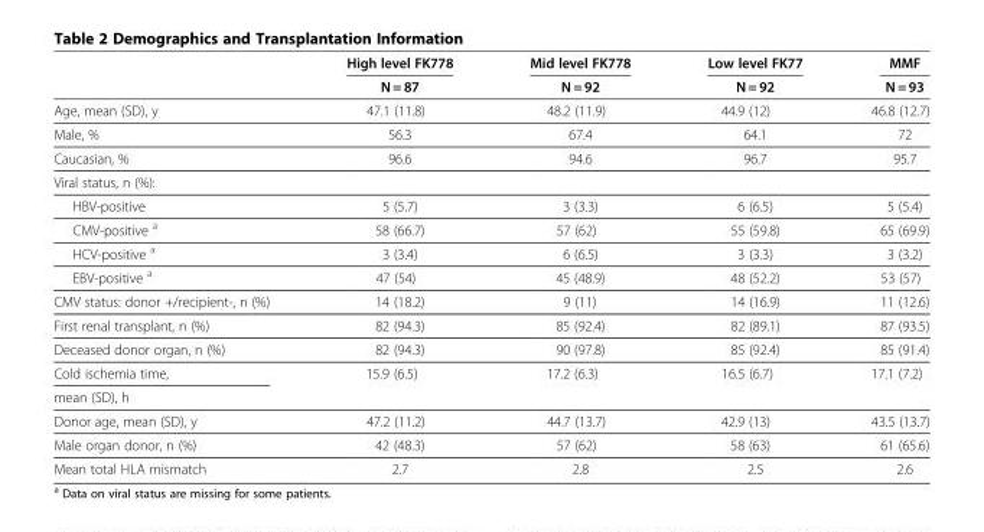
<table><thead><tr><td rowspan="2"></td><td rowspan="2">High level FK778 N = 87</td><td rowspan="2">Mid level FK778 N = 92</td><td rowspan="2">Low level FK77 N = 92</td><td rowspan="2">MMF N = 93</td></tr><tr></tr></thead><tbody><tr><td>Age, mean (SD), y</td><td>47.1 (11.8)</td><td>48.2 (11.9)</td><td>44.9 (12)</td><td>46.8 (12.7)</td></tr><tr><td>Male, %</td><td>56.3</td><td>67.4</td><td>64.1</td><td>72</td></tr><tr><td>Caucasian, %</td><td>96.6</td><td>94.6</td><td>96.7</td><td>95.7</td></tr><tr><td colspan="5">Viral status, n (%):</td></tr><tr><td>HBV-positive</td><td>5 (5.7)</td><td>3 (3.3)</td><td>6 (6.5)</td><td>5 (5.4)</td></tr><tr><td>CMV-positive <sup>a</sup></td><td>58 (66.7)</td><td>57 (62)</td><td>55 (59.8)</td><td>65 (69.9)</td></tr><tr><td>HCV-positive <sup>a</sup></td><td>3 (3.4)</td><td>6 (6.5)</td><td>3 (3.3)</td><td>3 (3.2)</td></tr><tr><td>EBV-positive <sup>a</sup></td><td>47 (54)</td><td>45 (48.9)</td><td>48 (52.2)</td><td>53 (57)</td></tr><tr><td>CMV status: donor +/recipient-, n (%)</td><td>14 (18.2)</td><td>9 (11)</td><td>14 (16.9)</td><td>11 (12.6)</td></tr><tr><td>First renal transplant, n (%)</td><td>82 (94.3)</td><td>85 (92.4)</td><td>82 (89.1)</td><td>87 (93.5)</td></tr><tr><td>Deceased donor organ, n (%)</td><td>82 (94.3)</td><td>90 (97.8)</td><td>85 (92.4)</td><td>85 (91.4)</td></tr><tr><td>Cold ischemia time,</td><td rowspan="2">15.9 (6.5)</td><td rowspan="2">17.2 (6.3)</td><td rowspan="2">16.5 (6.7)</td><td rowspan="2">17.1 (7.2)</td></tr><tr><td>mean (SD), h</td></tr><tr><td>Donor age, mean (SD), y</td><td>47.2 (11.2)</td><td>44.7 (13.7)</td><td>42.9 (13)</td><td>43.5 (13.7)</td></tr><tr><td>Male organ donor, n (%)</td><td>42 (48.3)</td><td>57 (62)</td><td>58 (63)</td><td>61 (65.6)</td></tr><tr><td>Mean total HLA mismatch</td><td>2.7</td><td>2.8</td><td>2.5</td><td>2.6</td></tr></tbody></table>